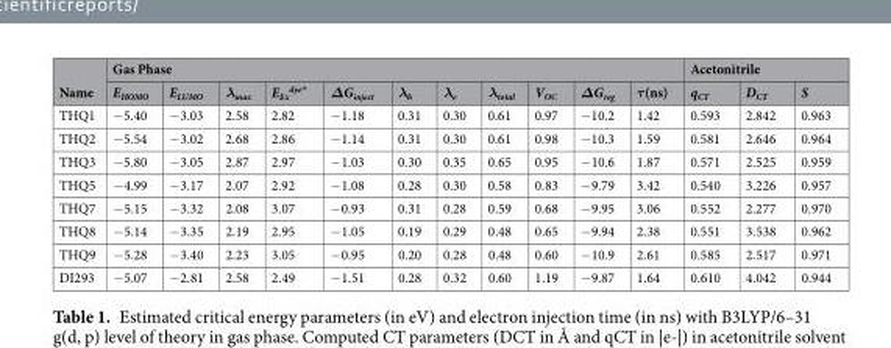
<table><thead><tr><td rowspan="2">Name</td><td colspan="11">Gas Phase</td><td colspan="3">Acetonitrile</td></tr><tr><td>E<sub>HOMO</sub></td><td>E<sub>LUMO</sub></td><td>λ<sub>max</sub></td><td>E<sub>Ex</sub> <sup>dye*</sup></td><td>ΔG<sub>inject</sub></td><td>λ<sub>h</sub></td><td>λ<sub>e</sub></td><td>λ<sub>total</sub></td><td>V<sub>OC</sub></td><td>ΔG<sub>reg</sub></td><td>τ(ns)</td><td>q<sub>CT</sub></td><td>D<sub>CT</sub></td><td>S</td></tr></thead><tbody><tr><td>THQ1</td><td>−5.40</td><td>−3.03</td><td>2.58</td><td>2.82</td><td>−1.18</td><td>0.31</td><td>0.30</td><td>0.61</td><td>0.97</td><td>−10.2</td><td>1.42</td><td>0.593</td><td>2.842</td><td>0.963</td></tr><tr><td>THQ2</td><td>−5.54</td><td>−3.02</td><td>2.68</td><td>2.86</td><td>−1.14</td><td>0.31</td><td>0.30</td><td>0.61</td><td>0.98</td><td>−10.3</td><td>1.59</td><td>0.581</td><td>2.646</td><td>0.964</td></tr><tr><td>THQ3</td><td>−5.80</td><td>−3.05</td><td>2.87</td><td>2.97</td><td>−1.03</td><td>0.30</td><td>0.35</td><td>0.65</td><td>0.95</td><td>−10.6</td><td>1.87</td><td>0.571</td><td>2.525</td><td>0.959</td></tr><tr><td>THQ5</td><td>−4.99</td><td>−3.17</td><td>2.07</td><td>2.92</td><td>−1.08</td><td>0.28</td><td>0.30</td><td>0.58</td><td>0.83</td><td>−9.79</td><td>3.42</td><td>0.540</td><td>3.226</td><td>0.957</td></tr><tr><td>THQ7</td><td>−5.15</td><td>−3.32</td><td>2.08</td><td>3.07</td><td>−0.93</td><td>0.31</td><td>0.28</td><td>0.59</td><td>0.68</td><td>−9.95</td><td>3.06</td><td>0.552</td><td>2.277</td><td>0.970</td></tr><tr><td>THQ8</td><td>−5.14</td><td>−3.35</td><td>2.19</td><td>2.95</td><td>−1.05</td><td>0.19</td><td>0.29</td><td>0.48</td><td>0.65</td><td>−9.94</td><td>2.38</td><td>0.551</td><td>3.538</td><td>0.962</td></tr><tr><td>THQ9</td><td>−5.28</td><td>−3.40</td><td>2.23</td><td>3.05</td><td>−0.95</td><td>0.20</td><td>0.28</td><td>0.48</td><td>0.60</td><td>−10.9</td><td>2.61</td><td>0.585</td><td>2.517</td><td>0.971</td></tr><tr><td>DI293</td><td>−5.07</td><td>−2.81</td><td>2.58</td><td>2.49</td><td>−1.51</td><td>0.28</td><td>0.32</td><td>0.60</td><td>1.19</td><td>−9.87</td><td>1.64</td><td>0.610</td><td>4.042</td><td>0.944</td></tr></tbody></table>